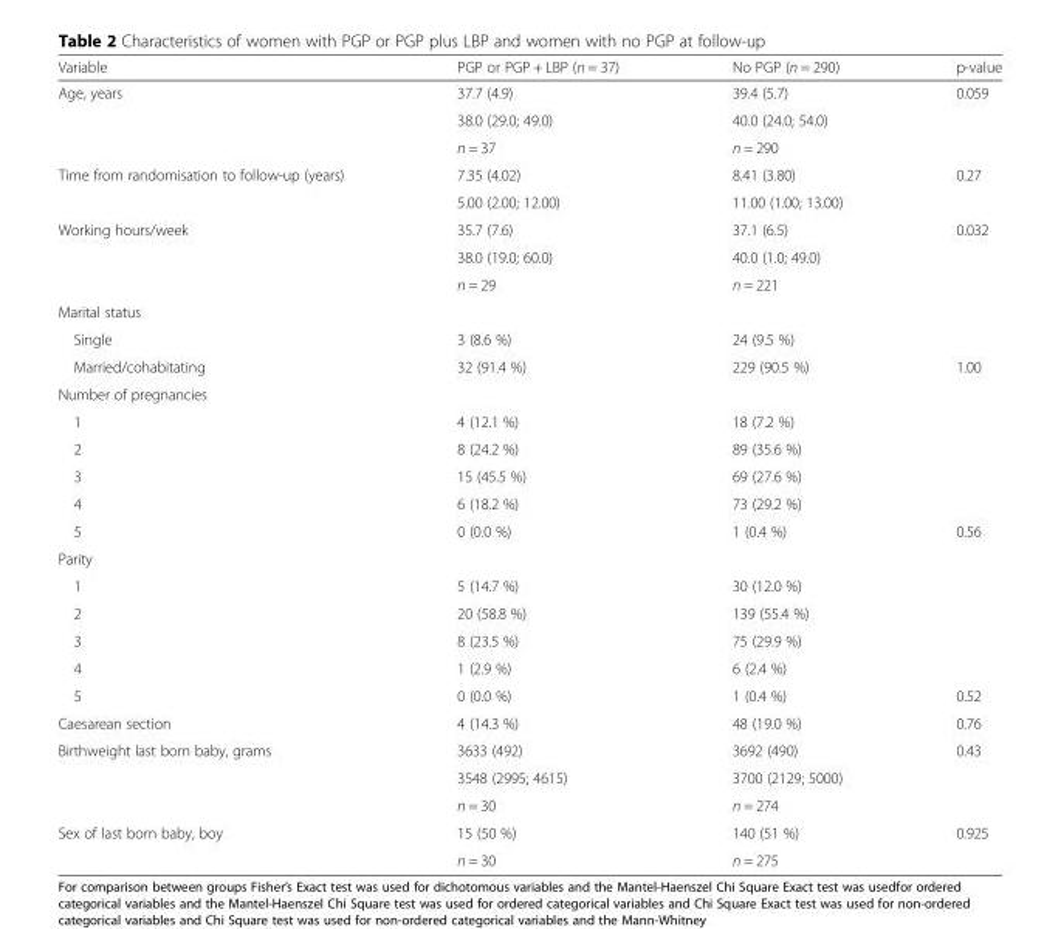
<table><thead><tr><td>Variable</td><td>PGP or PGP + LBP (n = 37)</td><td>No PGP (n = 290)</td><td>p-value</td></tr></thead><tbody><tr><td rowspan="3">Age, years</td><td>37.7 (4.9)</td><td>39.4 (5.7)</td><td rowspan="3">0.059</td></tr><tr><td>38.0 (29.0; 49.0)</td><td>40.0 (24.0; 54.0)</td></tr><tr><td>n = 37</td><td>n = 290</td></tr><tr><td rowspan="2">Time from randomisation to follow-up (years)</td><td>7.35 (4.02)</td><td>8.41 (3.80)</td><td rowspan="2">0.27</td></tr><tr><td>5.00 (2.00; 12.00)</td><td>11.00 (1.00; 13.00)</td></tr><tr><td rowspan="3">Working hours/week</td><td>35.7 (7.6)</td><td>37.1 (6.5)</td><td rowspan="3">0.032</td></tr><tr><td>38.0 (19.0; 60.0)</td><td>40.0 (1.0; 49.0)</td></tr><tr><td>n = 29</td><td>n = 221</td></tr><tr><td colspan="4">Marital status</td></tr><tr><td>Single</td><td>3 (8.6 %)</td><td>24 (9.5 %)</td><td></td></tr><tr><td>Married/cohabitating</td><td>32 (91.4 %)</td><td>229 (90.5 %)</td><td>1.00</td></tr><tr><td colspan="4">Number of pregnancies</td></tr><tr><td>1</td><td>4 (12.1 %)</td><td>18 (7.2 %)</td><td></td></tr><tr><td>2</td><td>8 (24.2 %)</td><td>89 (35.6 %)</td><td></td></tr><tr><td>3</td><td>15 (45.5 %)</td><td>69 (27.6 %)</td><td></td></tr><tr><td>4</td><td>6 (18.2 %)</td><td>73 (29.2 %)</td><td></td></tr><tr><td>5</td><td>0 (0.0 %)</td><td>1 (0.4 %)</td><td>0.56</td></tr><tr><td colspan="4">Parity</td></tr><tr><td>1</td><td>5 (14.7 %)</td><td>30 (12.0 %)</td><td></td></tr><tr><td>2</td><td>20 (58.8 %)</td><td>139 (55.4 %)</td><td></td></tr><tr><td>3</td><td>8 (23.5 %)</td><td>75 (29.9 %)</td><td></td></tr><tr><td>4</td><td>1 (2.9 %)</td><td>6 (2.4 %)</td><td></td></tr><tr><td>5</td><td>0 (0.0 %)</td><td>1 (0.4 %)</td><td>0.52</td></tr><tr><td>Caesarean section</td><td>4 (14.3 %)</td><td>48 (19.0 %)</td><td>0.76</td></tr><tr><td rowspan="3">Birthweight last born baby, grams</td><td>3633 (492)</td><td>3692 (490)</td><td rowspan="3">0.43</td></tr><tr><td>3548 (2995; 4615)</td><td>3700 (2129; 5000)</td></tr><tr><td>n = 30</td><td>n = 274</td></tr><tr><td rowspan="2">Sex of last born baby, boy</td><td>15 (50 %)</td><td>140 (51 %)</td><td rowspan="2">0.925</td></tr><tr><td>n = 30</td><td>n = 275</td></tr></tbody></table>